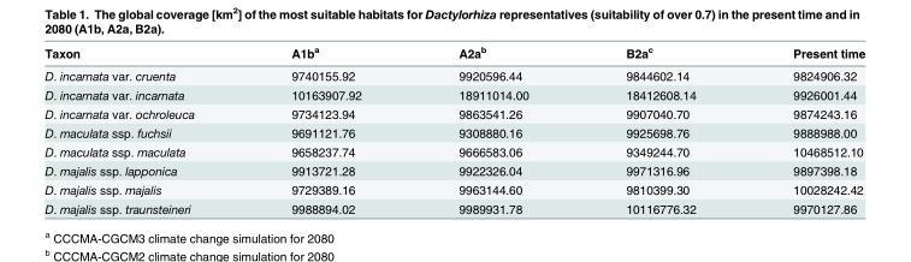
<table><thead><tr><td>Taxon</td><td>A1b<sup>a</sup></td><td>A2a<sup>b</sup></td><td>B2a<sup>c</sup></td><td>Present time</td></tr></thead><tbody><tr><td>D. incarnata var. cruenta</td><td>9740155.92</td><td>9920596.44</td><td>9844602.14</td><td>9824906.32</td></tr><tr><td>D. incarnata var. incarnata</td><td>10163907.92</td><td>18911014.00</td><td>18412608.14</td><td>9926001.44</td></tr><tr><td>D. incarnata var. ochroleuca</td><td>9734123.94</td><td>9863541.26</td><td>9907040.70</td><td>9874243.16</td></tr><tr><td>D. maculata ssp. fuchsii</td><td>9691121.76</td><td>9308880.16</td><td>9925698.76</td><td>9888988.00</td></tr><tr><td>D. maculata ssp. maculata</td><td>9658237.74</td><td>9666583.06</td><td>9349244.70</td><td>10468512.10</td></tr><tr><td>D. majalis ssp. lapponica</td><td>9913721.28</td><td>9922326.04</td><td>9971316.96</td><td>9897398.18</td></tr><tr><td>D. majalis ssp. majalis</td><td>9729389.16</td><td>9963144.60</td><td>9810399.30</td><td>10028242.42</td></tr><tr><td>D. majalis ssp. traunsteineri</td><td>9988894.02</td><td>9989931.78</td><td>10116776.32</td><td>9970127.86</td></tr></tbody></table>